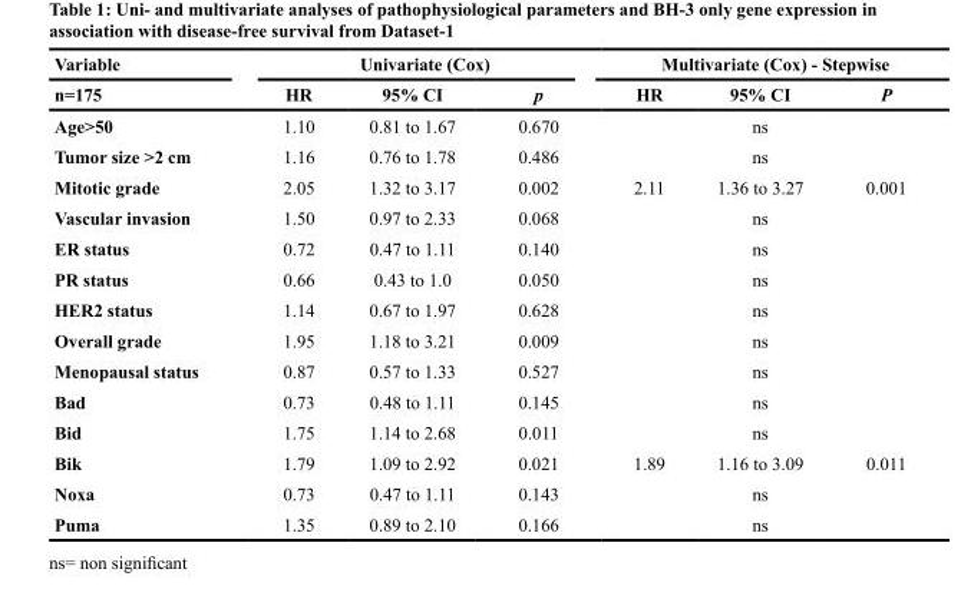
<table><thead><tr><td rowspan="2">Variable n=175</td><td colspan="3">Univariate (Cox)</td><td colspan="3">Multivariate (Cox) - Stepwise</td></tr><tr><td>HR</td><td>95% CI</td><td>p</td><td>HR</td><td>95% CI</td><td>P</td></tr></thead><tbody><tr><td>Age&gt;50</td><td>1.10</td><td>0.81 to 1.67</td><td>0.670</td><td></td><td>ns</td><td></td></tr><tr><td>Tumor size &gt;2 cm</td><td>1.16</td><td>0.76 to 1.78</td><td>0.486</td><td></td><td>ns</td><td></td></tr><tr><td>Mitotic grade</td><td>2.05</td><td>1.32 to 3.17</td><td>0.002</td><td>2.11</td><td>1.36 to 3.27</td><td>0.001</td></tr><tr><td>Vascular invasion</td><td>1.50</td><td>0.97 to 2.33</td><td>0.068</td><td></td><td>ns</td><td></td></tr><tr><td>ER status</td><td>0.72</td><td>0.47 to 1.11</td><td>0.140</td><td></td><td>ns</td><td></td></tr><tr><td>PR status</td><td>0.66</td><td>0.43 to 1.0</td><td>0.050</td><td></td><td>ns</td><td></td></tr><tr><td>HER2 status</td><td>1.14</td><td>0.67 to 1.97</td><td>0.628</td><td></td><td>ns</td><td></td></tr><tr><td>Overall grade</td><td>1.95</td><td>1.18 to 3.21</td><td>0.009</td><td></td><td>ns</td><td></td></tr><tr><td>Menopausal status</td><td>0.87</td><td>0.57 to 1.33</td><td>0.527</td><td></td><td>ns</td><td></td></tr><tr><td>Bad</td><td>0.73</td><td>0.48 to 1.11</td><td>0.145</td><td></td><td>ns</td><td></td></tr><tr><td>Bid</td><td>1.75</td><td>1.14 to 2.68</td><td>0.011</td><td></td><td>ns</td><td></td></tr><tr><td>Bik</td><td>1.79</td><td>1.09 to 2.92</td><td>0.021</td><td>1.89</td><td>1.16 to 3.09</td><td>0.011</td></tr><tr><td>Noxa</td><td>0.73</td><td>0.47 to 1.11</td><td>0.143</td><td></td><td>ns</td><td></td></tr><tr><td>Puma</td><td>1.35</td><td>0.89 to 2.10</td><td>0.166</td><td></td><td>ns</td><td></td></tr></tbody></table>